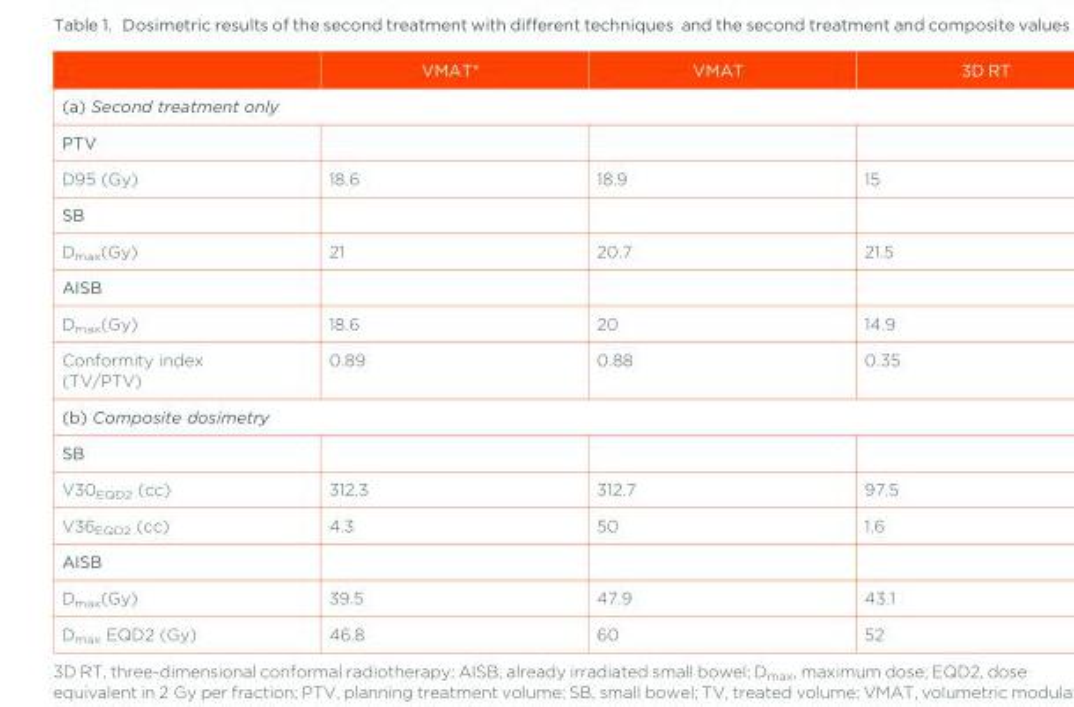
<table><thead><tr><td></td><td>VMAT*</td><td>VMAT</td><td>3D RT</td></tr></thead><tbody><tr><td colspan="4">(a) Second treatment only</td></tr><tr><td colspan="4">PTV</td></tr><tr><td>D95 (Gy)</td><td>18.6</td><td>18.9</td><td>15</td></tr><tr><td colspan="4">SB</td></tr><tr><td>D<sub>max</sub>(Gy)</td><td>21</td><td>20.7</td><td>21.5</td></tr><tr><td colspan="4">AISB</td></tr><tr><td>D<sub>max</sub>(Gy)</td><td>18.6</td><td>20</td><td>14.9</td></tr><tr><td>Conformity index (TV/PTV)</td><td>0.89</td><td>0.88</td><td>0.35</td></tr><tr><td colspan="4">(b) Composite dosimetry</td></tr><tr><td colspan="4">SB</td></tr><tr><td>V30<sub>EQD2</sub> (cc)</td><td>312.3</td><td>312.7</td><td>97.5</td></tr><tr><td>V36<sub>EQD2</sub> (cc)</td><td>4.3</td><td>50</td><td>1.6</td></tr><tr><td colspan="4">AISB</td></tr><tr><td>D<sub>max</sub>(Gy)</td><td>39.5</td><td>47.9</td><td>43.1</td></tr><tr><td>D<sub>max</sub> EQD2 (Gy)</td><td>46.8</td><td>60</td><td>52</td></tr></tbody></table>